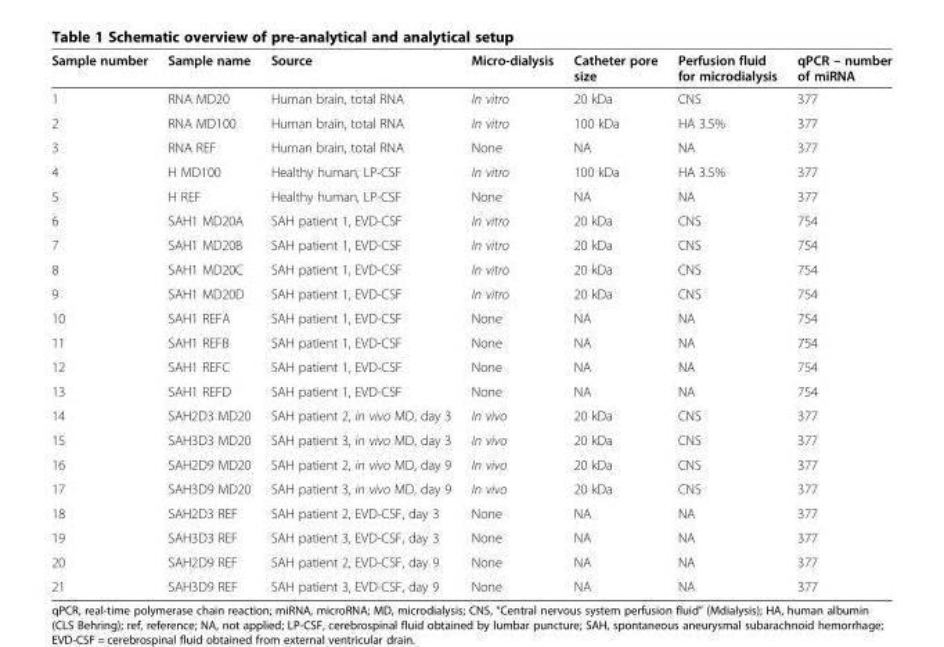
<table><thead><tr><td>Sample number</td><td>Sample name</td><td>Source</td><td>Micro-dialysis</td><td>Catheter pore size</td><td>Perfusion fluid for microdialysis</td><td>qPCR – number of miRNA</td></tr></thead><tbody><tr><td>1</td><td>RNA MD20</td><td>Human brain, total RNA</td><td>In vitro</td><td>20 kDa</td><td>CNS</td><td>377</td></tr><tr><td>2</td><td>RNA MD100</td><td>Human brain, total RNA</td><td>In vitro</td><td>100 kDa</td><td>HA 3.5%</td><td>377</td></tr><tr><td>3</td><td>RNA REF</td><td>Human brain, total RNA</td><td>None</td><td>NA</td><td>NA</td><td>377</td></tr><tr><td>4</td><td>H MD100</td><td>Healthy human, LP-CSF</td><td>In vitro</td><td>100 kDa</td><td>HA 3.5%</td><td>377</td></tr><tr><td>5</td><td>H REF</td><td>Healthy human, LP-CSF</td><td>None</td><td>NA</td><td>NA</td><td>377</td></tr><tr><td>6</td><td>SAH1 MD20A</td><td>SAH patient 1, EVD-CSF</td><td>In vitro</td><td>20 kDa</td><td>CNS</td><td>754</td></tr><tr><td>7</td><td>SAH1 MD20B</td><td>SAH patient 1, EVD-CSF</td><td>In vitro</td><td>20 kDa</td><td>CNS</td><td>754</td></tr><tr><td>8</td><td>SAH1 MD20C</td><td>SAH patient 1, EVD-CSF</td><td>In vitro</td><td>20 kDa</td><td>CNS</td><td>754</td></tr><tr><td>9</td><td>SAH1 MD20D</td><td>SAH patient 1, EVD-CSF</td><td>In vitro</td><td>20 kDa</td><td>CNS</td><td>754</td></tr><tr><td>10</td><td>SAH1 REFA</td><td>SAH patient 1, EVD-CSF</td><td>None</td><td>NA</td><td>NA</td><td>754</td></tr><tr><td>11</td><td>SAH1 REFB</td><td>SAH patient 1, EVD-CSF</td><td>None</td><td>NA</td><td>NA</td><td>754</td></tr><tr><td>12</td><td>SAH1 REFC</td><td>SAH patient 1, EVD-CSF</td><td>None</td><td>NA</td><td>NA</td><td>754</td></tr><tr><td>13</td><td>SAH1 REFD</td><td>SAH patient 1, EVD-CSF</td><td>None</td><td>NA</td><td>NA</td><td>754</td></tr><tr><td>14</td><td>SAH2D3 MD20</td><td>SAH patient 2, in vivo MD, day 3</td><td>In vivo</td><td>20 kDa</td><td>CNS</td><td>377</td></tr><tr><td>15</td><td>SAH3D3 MD20</td><td>SAH patient 3, in vivo MD, day 3</td><td>In vivo</td><td>20 kDa</td><td>CNS</td><td>377</td></tr><tr><td>16</td><td>SAH2D9 MD20</td><td>SAH patient 2, in vivo MD, day 9</td><td>In vivo</td><td>20 kDa</td><td>CNS</td><td>377</td></tr><tr><td>17</td><td>SAH3D9 MD20</td><td>SAH patient 3, in vivo MD, day 9</td><td>In vivo</td><td>20 kDa</td><td>CNS</td><td>377</td></tr><tr><td>18</td><td>SAH2D3 REF</td><td>SAH patient 2, EVD-CSF, day 3</td><td>None</td><td>NA</td><td>NA</td><td>377</td></tr><tr><td>19</td><td>SAH3D3 REF</td><td>SAH patient 3, EVD-CSF, day 3</td><td>None</td><td>NA</td><td>NA</td><td>377</td></tr><tr><td>20</td><td>SAH2D9 REF</td><td>SAH patient 2, EVD-CSF, day 9</td><td>None</td><td>NA</td><td>NA</td><td>377</td></tr><tr><td>21</td><td>SAH3D9 REF</td><td>SAH patient 3, EVD-CSF, day 9</td><td>None</td><td>NA</td><td>NA</td><td>377</td></tr></tbody></table>